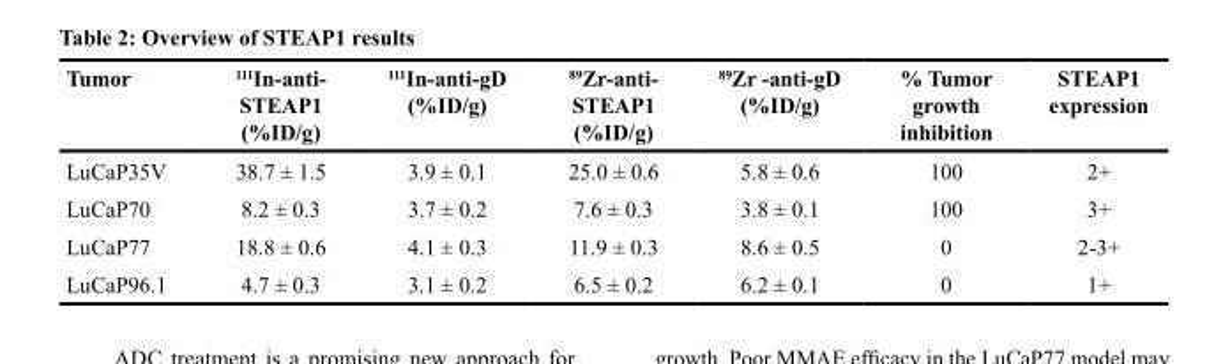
<table><thead><tr><td>Tumor</td><td><sup>111</sup>In-anti- STEAP1 (%ID/g)</td><td><sup>111</sup>In-anti-gD (%ID/g)</td><td><sup>89</sup>Zr-anti- STEAP1 (%ID/g)</td><td><sup>89</sup>Zr -anti-gD (%ID/g)</td><td>% Tumor growth inhibition</td><td>STEAP1 expression</td></tr></thead><tbody><tr><td>LuCaP35V</td><td>38.7 ± 1.5</td><td>3.9 ± 0.1</td><td>25.0 ± 0.6</td><td>5.8 ± 0.6</td><td>100</td><td>2+</td></tr><tr><td>LuCaP70</td><td>8.2 ± 0.3</td><td>3.7 ± 0.2</td><td>7.6 ± 0.3</td><td>3.8 ± 0.1</td><td>100</td><td>3+</td></tr><tr><td>LuCaP77</td><td>18.8 ± 0.6</td><td>4.1 ± 0.3</td><td>11.9 ± 0.3</td><td>8.6 ± 0.5</td><td>0</td><td>2-3+</td></tr><tr><td>LuCaP96.1</td><td>4.7 ± 0.3</td><td>3.1 ± 0.2</td><td>6.5 ± 0.2</td><td>6.2 ± 0.1</td><td>0</td><td>1+</td></tr></tbody></table>